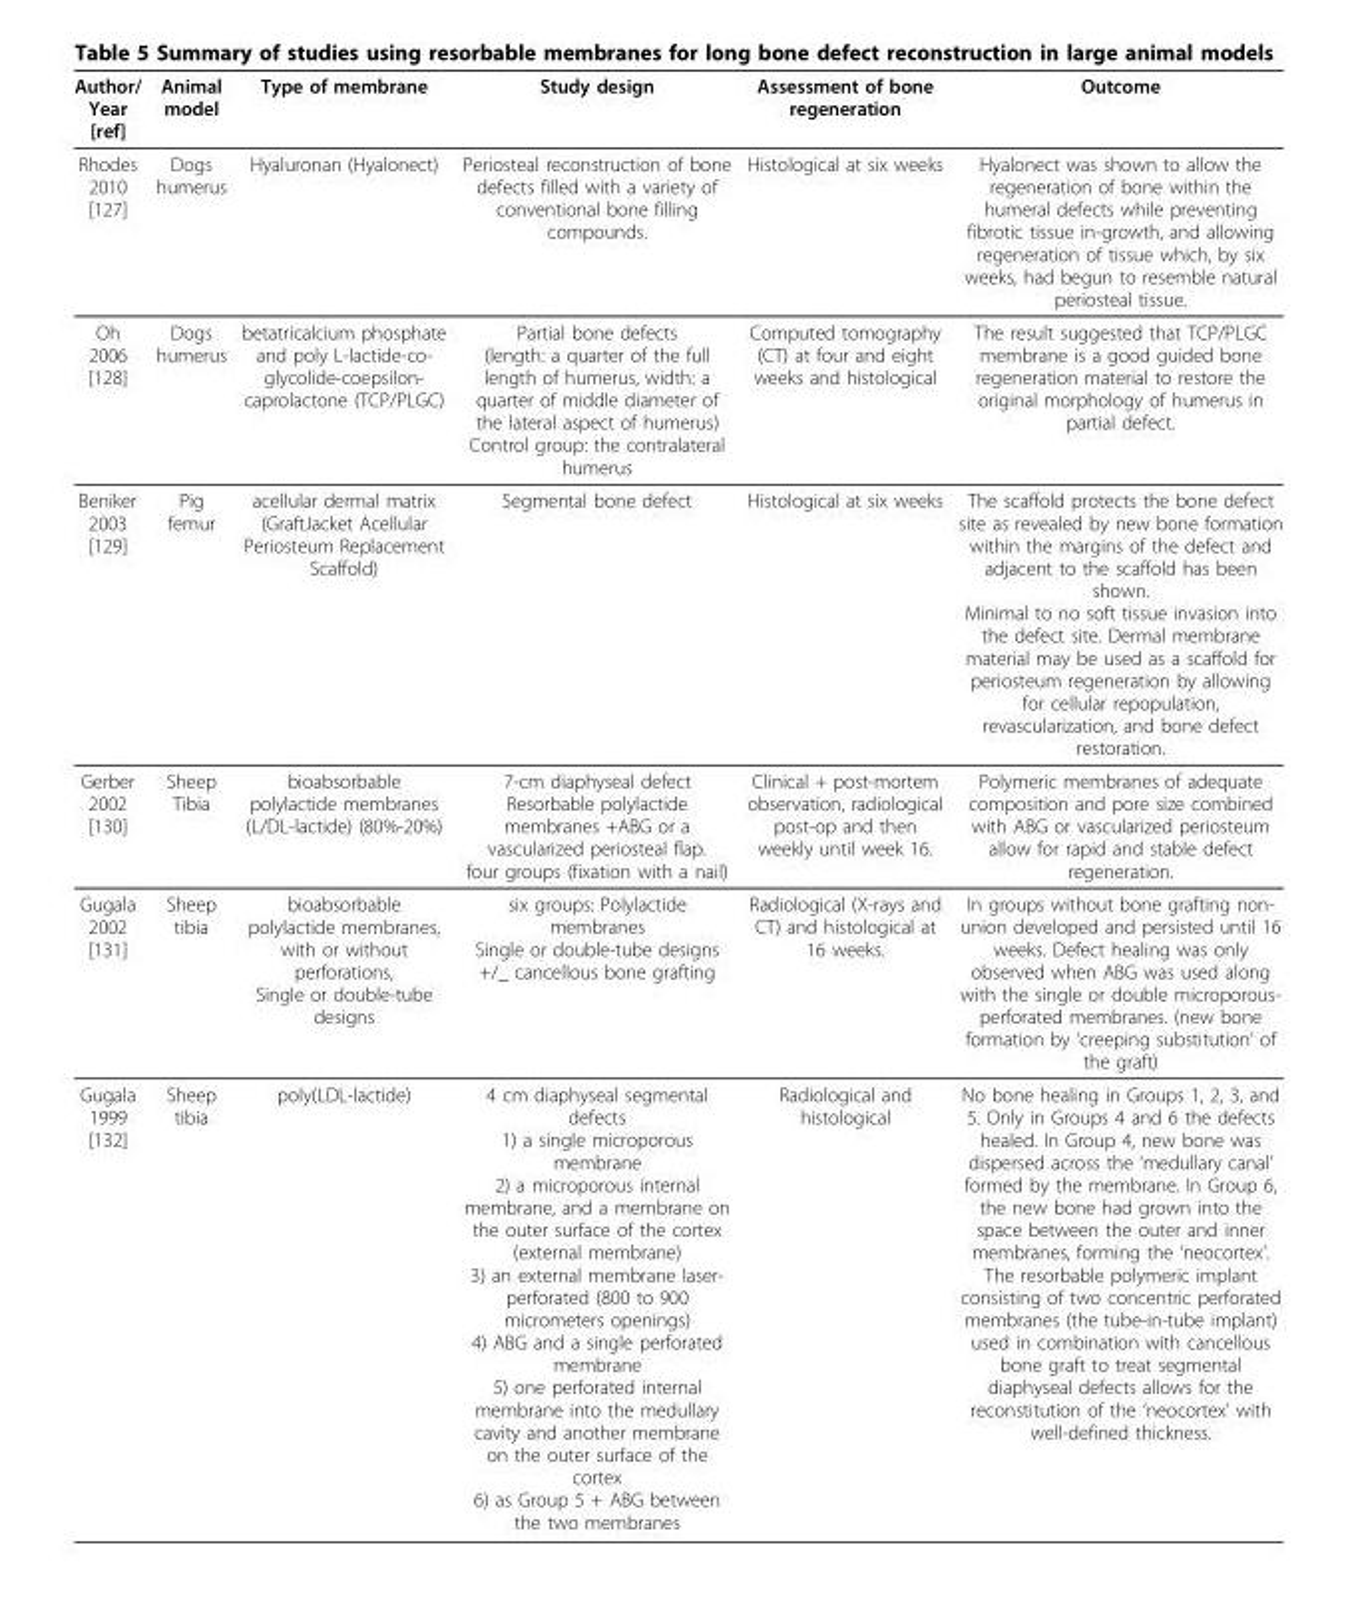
<table><thead><tr><td>Author/ Year [ref]</td><td>Animal model</td><td>Type of membrane</td><td>Study design</td><td>Assessment of bone regeneration</td><td>Outcome</td></tr></thead><tbody><tr><td>Rhodes 2010 [127]</td><td>Dogs humerus</td><td>Hyaluronan (Hyalonect)</td><td>Periosteal reconstruction of bone defects filled with a variety of conventional bone filling compounds.</td><td>Histological at six weeks</td><td>Hyalonect was shown to allow the regeneration of bone within the humeral defects while preventing fibrotic tissue in-growth, and allowing regeneration of tissue which, by six weeks, had begun to resemble natural periosteal tissue.</td></tr><tr><td>Oh 2006 [128]</td><td>Dogs humerus</td><td>betatricalcium phosphate and poly L-lactide-co- glycolide-coepsilon- caprolactone (TCP/PLGC)</td><td>Partial bone defects (length: a quarter of the full length of humerus, width: a quarter of middle diameter of the lateral aspect of humerus) Control group: the contralateral humerus</td><td>Computed tomography (CT) at four and eight weeks and histological</td><td>The result suggested that TCP/PLGC membrane is a good guided bone regeneration material to restore the original morphology of humerus in partial defect.</td></tr><tr><td>Beniker 2003 [129]</td><td>Pig femur</td><td>acellular dermal matrix (GraftJacket Acellular Periosteum Replacement Scaffold)</td><td>Segmental bone defect</td><td>Histological at six weeks</td><td>The scaffold protects the bone defect site as revealed by new bone formation within the margins of the defect and adjacent to the scaffold has been shown. Minimal to no soft tissue invasion into the defect site. Dermal membrane material may be used as a scaffold for periosteum regeneration by allowing for cellular repopulation, revascularization, and bone defect restoration.</td></tr><tr><td>Gerber 2002 [130]</td><td>Sheep Tibia</td><td>bioabsorbable polylactide membranes (L/DL-lactide) (80%-20%)</td><td>7-cm diaphyseal defect Resorbable polylactide membranes +ABG or a vascularized periosteal flap. four groups (fixation with a nail)</td><td>Clinical + post-mortem observation, radiological post-op and then weekly until week 16.</td><td>Polymeric membranes of adequate composition and pore size combined with ABG or vascularized periosteum allow for rapid and stable defect regeneration.</td></tr><tr><td>Gugala 2002 [131]</td><td>Sheep tibia</td><td>bioabsorbable polylactide membranes, with or without perforations, Single or double-tube designs</td><td>six groups: Polylactide membranes Single or double-tube designs +/_ cancellous bone grafting</td><td>Radiological (X-rays and CT) and histological at 16 weeks.</td><td>In groups without bone grafting non- union developed and persisted until 16 weeks. Defect healing was only observed when ABG was used along with the single or double microporous- perforated membranes. (new bone formation by ‘creeping substitution’ of the graft)</td></tr><tr><td>Gugala 1999 [132]</td><td>Sheep tibia</td><td>poly(LDL-lactide)</td><td>4 cm diaphyseal segmental defects 1) a single microporous membrane 2) a microporous internal membrane, and a membrane on the outer surface of the cortex (external membrane) 3) an external membrane laser- perforated (800 to 900 micrometers openings) 4) ABG and a single perforated membrane 5) one perforated internal membrane into the medullary cavity and another membrane on the outer surface of the cortex 6) as Group 5 + ABG between the two membranes</td><td>Radiological and histological</td><td>No bone healing in Groups 1, 2, 3, and 5. Only in Groups 4 and 6 the defects healed. In Group 4, new bone was dispersed across the ‘medullary canal’ formed by the membrane. In Group 6, the new bone had grown into the space between the outer and inner membranes, forming the ‘neocortex’. The resorbable polymeric implant consisting of two concentric perforated membranes (the tube-in-tube implant) used in combination with cancellous bone graft to treat segmental diaphyseal defects allows for the reconstitution of the ‘neocortex’ with well-defined thickness.</td></tr></tbody></table>